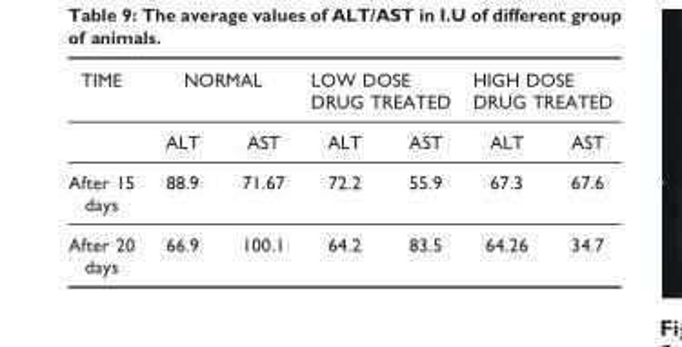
<table><thead><tr><td rowspan="2">TIME</td><td colspan="2">NORMAL</td><td colspan="2">LOW DOSE DRUG TREATED</td><td colspan="2">HIGH DOSE DRUG TREATED</td></tr><tr><td>ALT</td><td>AST</td><td>ALT</td><td>AST</td><td>ALT</td><td>AST</td></tr></thead><tbody><tr><td>After 15 days</td><td>88.9</td><td>71.67</td><td>72.2</td><td>55.9</td><td>67.3</td><td>67.6</td></tr><tr><td>After 20 days</td><td>66.9</td><td>100.1</td><td>64.2</td><td>83.5</td><td>64.26</td><td>34.7</td></tr></tbody></table>